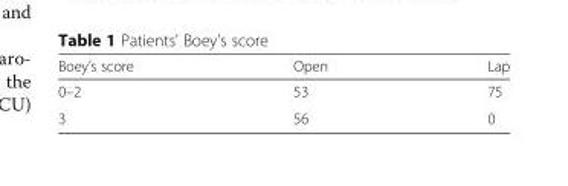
<table><thead><tr><td>Boey’s score</td><td>Open</td><td>Lap</td></tr></thead><tbody><tr><td>0–2</td><td>53</td><td>75</td></tr><tr><td>3</td><td>56</td><td>0</td></tr></tbody></table>